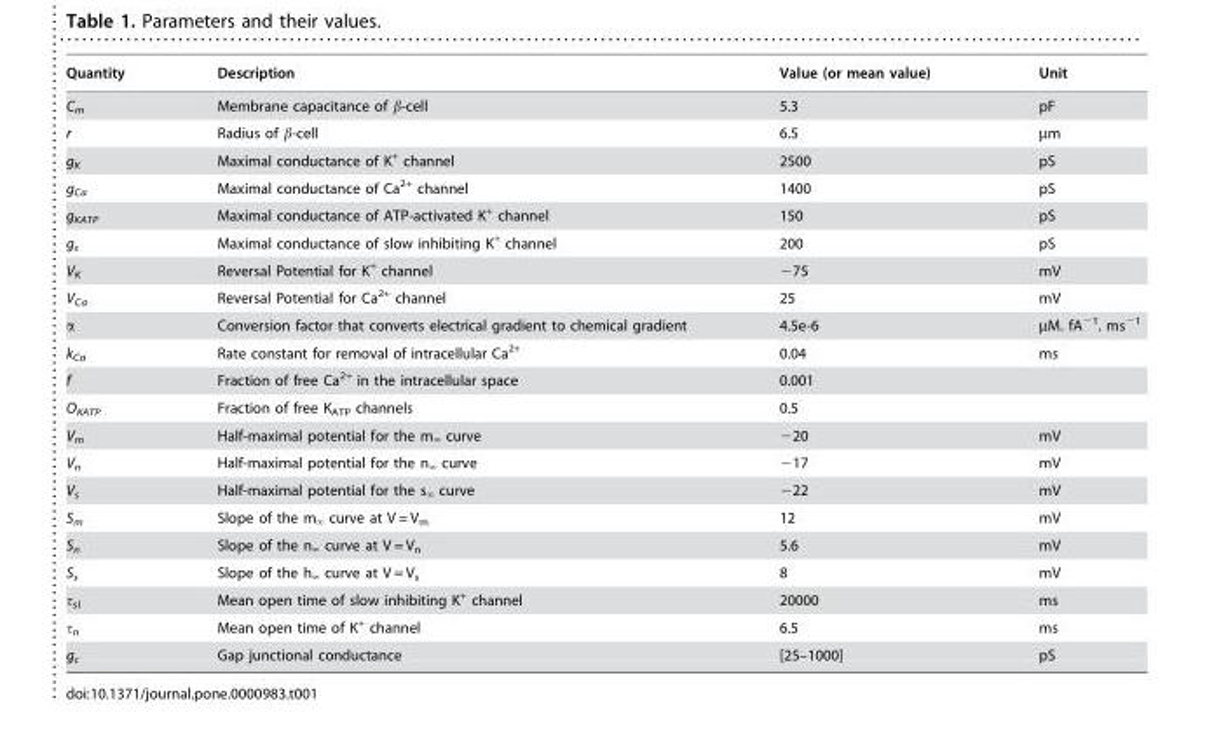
<table><thead><tr><td>Quantity</td><td>Description</td><td>Value (or mean value)</td><td>Unit</td></tr></thead><tbody><tr><td>C<sub>m</sub></td><td>Membrane capacitance of β-cell</td><td>5.3</td><td>pF</td></tr><tr><td>r</td><td>Radius of β-cell</td><td>6.5</td><td>µm</td></tr><tr><td>g<sub>K</sub></td><td>Maximal conductance of K<sup>+</sup> channel</td><td>2500</td><td>pS</td></tr><tr><td>g<sub>Ca</sub></td><td>Maximal conductance of Ca<sup>2+</sup> channel</td><td>1400</td><td>pS</td></tr><tr><td>g<sub>KATP</sub></td><td>Maximal conductance of ATP-activated K<sup>+</sup> channel</td><td>150</td><td>pS</td></tr><tr><td>g<sub>s</sub></td><td>Maximal conductance of slow inhibiting K<sup>+</sup> channel</td><td>200</td><td>pS</td></tr><tr><td>V<sub>K</sub></td><td>Reversal Potential for K<sup>+</sup> channel</td><td>−75</td><td>mV</td></tr><tr><td>V<sub>Ca</sub></td><td>Reversal Potential for Ca<sup>2+</sup> channel</td><td>25</td><td>mV</td></tr><tr><td>α</td><td>Conversion factor that converts electrical gradient to chemical gradient</td><td>4.5e-6</td><td>µM. fA<sup>−1</sup>. ms<sup>−1</sup></td></tr><tr><td>k<sub>Ca</sub></td><td>Rate constant for removal of intracellular Ca<sup>2+</sup></td><td>0.04</td><td>ms</td></tr><tr><td>f</td><td>Fraction of free Ca<sup>2+</sup> in the intracellular space</td><td>0.001</td><td></td></tr><tr><td>O<sub>KATP</sub></td><td>Fraction of free K<sub>ATP</sub> channels</td><td>0.5</td><td></td></tr><tr><td>V<sub>m</sub></td><td>Half-maximal potential for the m‘ curve</td><td>−20</td><td>mV</td></tr><tr><td>V<sub>n</sub></td><td>Half-maximal potential for the n‘ curve</td><td>−17</td><td>mV</td></tr><tr><td>V<sub>s</sub></td><td>Half-maximal potential for the s‘ curve</td><td>−22</td><td>mV</td></tr><tr><td>S<sub>m</sub></td><td>Slope of the m‘ curve at V = Vm</td><td>12</td><td>mV</td></tr><tr><td>S<sub>n</sub></td><td>Slope of the n‘ curve at V = Vn</td><td>5.6</td><td>mV</td></tr><tr><td>S<sub>s</sub></td><td>Slope of the h‘ curve at V = Vs</td><td>8</td><td>mV</td></tr><tr><td>τ<sub>sl</sub></td><td>Mean open time of slow inhibiting K<sup>+</sup> channel</td><td>20000</td><td>ms</td></tr><tr><td>τ<sub>n</sub></td><td>Mean open time of K<sup>+</sup> channel</td><td>6.5</td><td>ms</td></tr><tr><td>g<sub>c</sub></td><td>Gap junctional conductance</td><td>[25–1000]</td><td>pS</td></tr></tbody></table>